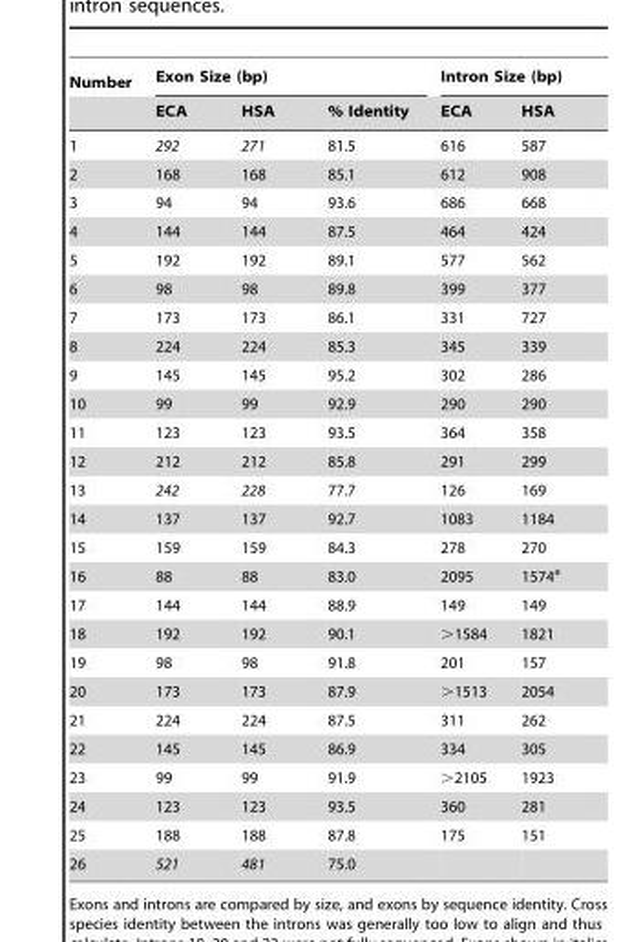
<table><thead><tr><td rowspan="2">Number</td><td colspan="3">Exon Size (bp)</td><td colspan="2">Intron Size (bp)</td></tr><tr><td>ECA</td><td>HSA</td><td>% Identity</td><td>ECA</td><td>HSA</td></tr></thead><tbody><tr><td>1</td><td>292</td><td>271</td><td>81.5</td><td>616</td><td>587</td></tr><tr><td>2</td><td>168</td><td>168</td><td>85.1</td><td>612</td><td>908</td></tr><tr><td>3</td><td>94</td><td>94</td><td>93.6</td><td>686</td><td>668</td></tr><tr><td>4</td><td>144</td><td>144</td><td>87.5</td><td>464</td><td>424</td></tr><tr><td>5</td><td>192</td><td>192</td><td>89.1</td><td>577</td><td>562</td></tr><tr><td>6</td><td>98</td><td>98</td><td>89.8</td><td>399</td><td>377</td></tr><tr><td>7</td><td>173</td><td>173</td><td>86.1</td><td>331</td><td>727</td></tr><tr><td>8</td><td>224</td><td>224</td><td>85.3</td><td>345</td><td>339</td></tr><tr><td>9</td><td>145</td><td>145</td><td>95.2</td><td>302</td><td>286</td></tr><tr><td>10</td><td>99</td><td>99</td><td>92.9</td><td>290</td><td>290</td></tr><tr><td>11</td><td>123</td><td>123</td><td>93.5</td><td>364</td><td>358</td></tr><tr><td>12</td><td>212</td><td>212</td><td>85.8</td><td>291</td><td>299</td></tr><tr><td>13</td><td>242</td><td>228</td><td>77.7</td><td>126</td><td>169</td></tr><tr><td>14</td><td>137</td><td>137</td><td>92.7</td><td>1083</td><td>1184</td></tr><tr><td>15</td><td>159</td><td>159</td><td>84.3</td><td>278</td><td>270</td></tr><tr><td>16</td><td>88</td><td>88</td><td>83.0</td><td>2095</td><td>1574<sup>a</sup></td></tr><tr><td>17</td><td>144</td><td>144</td><td>88.9</td><td>149</td><td>149</td></tr><tr><td>18</td><td>192</td><td>192</td><td>90.1</td><td>&gt;1584</td><td>1821</td></tr><tr><td>19</td><td>98</td><td>98</td><td>91.8</td><td>201</td><td>157</td></tr><tr><td>20</td><td>173</td><td>173</td><td>87.9</td><td>&gt;1513</td><td>2054</td></tr><tr><td>21</td><td>224</td><td>224</td><td>87.5</td><td>311</td><td>262</td></tr><tr><td>22</td><td>145</td><td>145</td><td>86.9</td><td>334</td><td>305</td></tr><tr><td>23</td><td>99</td><td>99</td><td>91.9</td><td>&gt;2105</td><td>1923</td></tr><tr><td>24</td><td>123</td><td>123</td><td>93.5</td><td>360</td><td>281</td></tr><tr><td>25</td><td>188</td><td>188</td><td>87.8</td><td>175</td><td>151</td></tr><tr><td>26</td><td>521</td><td>481</td><td>75.0</td><td></td><td></td></tr></tbody></table>